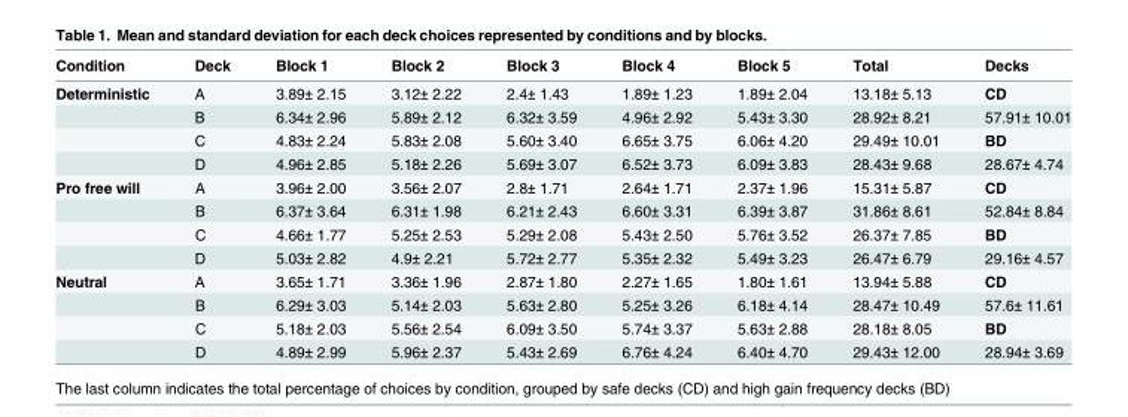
<table><thead><tr><td>Condition</td><td>Deck</td><td>Block 1</td><td>Block 2</td><td>Block 3</td><td>Block 4</td><td>Block 5</td><td>Total</td><td>Decks</td></tr></thead><tbody><tr><td rowspan="4">Deterministic</td><td>A</td><td>3.89± 2.15</td><td>3.12± 2.22</td><td>2.4± 1.43</td><td>1.89± 1.23</td><td>1.89± 2.04</td><td>13.18± 5.13</td><td>CD</td></tr><tr><td>B</td><td>6.34± 2.96</td><td>5.89± 2.12</td><td>6.32± 3.59</td><td>4.96± 2.92</td><td>5.43± 3.30</td><td>28.92± 8.21</td><td>57.91± 10.01</td></tr><tr><td>C</td><td>4.83± 2.24</td><td>5.83± 2.08</td><td>5.60± 3.40</td><td>6.65± 3.75</td><td>6.06± 4.20</td><td>29.49± 10.01</td><td>BD</td></tr><tr><td>D</td><td>4.96± 2.85</td><td>5.18± 2.26</td><td>5.69± 3.07</td><td>6.52± 3.73</td><td>6.09± 3.83</td><td>28.43± 9.68</td><td>28.67± 4.74</td></tr><tr><td rowspan="4">Pro free will</td><td>A</td><td>3.96± 2.00</td><td>3.56± 2.07</td><td>2.8± 1.71</td><td>2.64± 1.71</td><td>2.37± 1.96</td><td>15.31± 5.87</td><td>CD</td></tr><tr><td>B</td><td>6.37± 3.64</td><td>6.31± 1.98</td><td>6.21± 2.43</td><td>6.60± 3.31</td><td>6.39± 3.87</td><td>31.86± 8.61</td><td>52.84± 8.84</td></tr><tr><td>C</td><td>4.66± 1.77</td><td>5.25± 2.53</td><td>5.29± 2.08</td><td>5.43± 2.50</td><td>5.76± 3.52</td><td>26.37± 7.85</td><td>BD</td></tr><tr><td>D</td><td>5.03± 2.82</td><td>4.9± 2.21</td><td>5.72± 2.77</td><td>5.35± 2.32</td><td>5.49± 3.23</td><td>26.47± 6.79</td><td>29.16± 4.57</td></tr><tr><td rowspan="4">Neutral</td><td>A</td><td>3.65± 1.71</td><td>3.36± 1.96</td><td>2.87± 1.80</td><td>2.27± 1.65</td><td>1.80± 1.61</td><td>13.94± 5.88</td><td>CD</td></tr><tr><td>B</td><td>6.29± 3.03</td><td>5.14± 2.03</td><td>5.63± 2.80</td><td>5.25± 3.26</td><td>6.18± 4.14</td><td>28.47± 10.49</td><td>57.6± 11.61</td></tr><tr><td>C</td><td>5.18± 2.03</td><td>5.56± 2.54</td><td>6.09± 3.50</td><td>5.74± 3.37</td><td>5.63± 2.88</td><td>28.18± 8.05</td><td>BD</td></tr><tr><td>D</td><td>4.89± 2.99</td><td>5.96± 2.37</td><td>5.43± 2.69</td><td>6.76± 4.24</td><td>6.40± 4.70</td><td>29.43± 12.00</td><td>28.94± 3.69</td></tr></tbody></table>